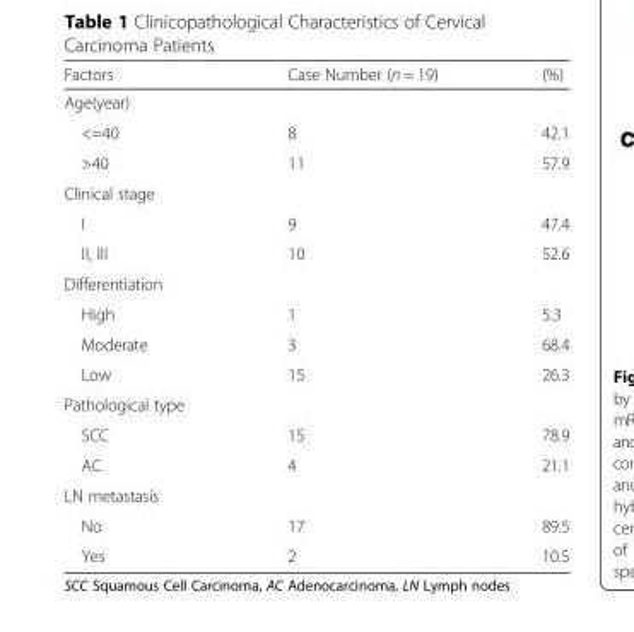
<table><thead><tr><td>Factors</td><td>Case Number (n = 19)</td><td>(%)</td></tr></thead><tbody><tr><td colspan="3">Age(year)</td></tr><tr><td>&lt;=40</td><td>8</td><td>42.1</td></tr><tr><td>&gt;40</td><td>11</td><td>57.9</td></tr><tr><td colspan="3">Clinical stage</td></tr><tr><td>I</td><td>9</td><td>47.4</td></tr><tr><td>II, III</td><td>10</td><td>52.6</td></tr><tr><td colspan="3">Differentiation</td></tr><tr><td>High</td><td>1</td><td>5.3</td></tr><tr><td>Moderate</td><td>3</td><td>68.4</td></tr><tr><td>Low</td><td>15</td><td>26.3</td></tr><tr><td colspan="3">Pathological type</td></tr><tr><td>SCC</td><td>15</td><td>78.9</td></tr><tr><td>AC</td><td>4</td><td>21.1</td></tr><tr><td colspan="3">LN metastasis</td></tr><tr><td>No</td><td>17</td><td>89.5</td></tr><tr><td>Yes</td><td>2</td><td>10.5</td></tr></tbody></table>